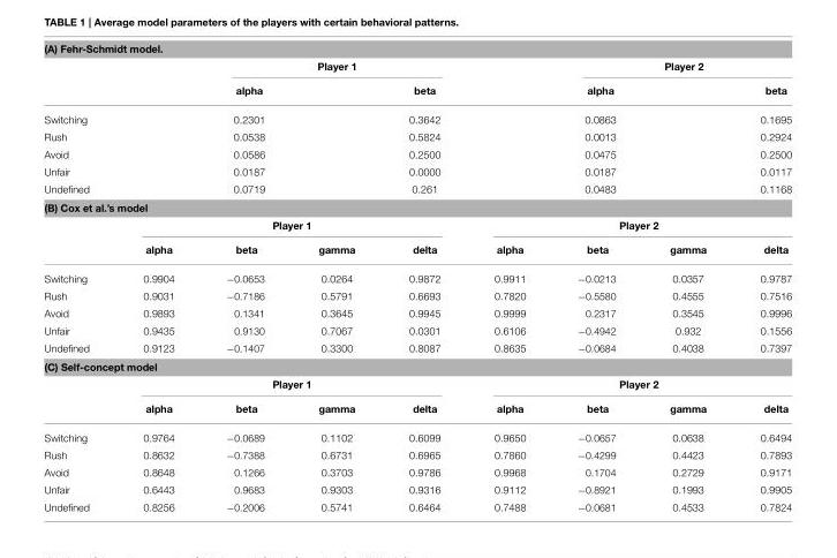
<table><thead><tr><td colspan="9">(A) Fehr-Schmidt model.</td></tr><tr><td rowspan="2"></td><td colspan="4">Player 1</td><td colspan="4">Player 2</td></tr><tr><td></td><td>alpha</td><td></td><td>beta</td><td></td><td>alpha</td><td></td><td>beta</td></tr></thead><tbody><tr><td>Switching</td><td></td><td>0.2301</td><td></td><td>0.3642</td><td></td><td>0.0863</td><td></td><td>0.1695</td></tr><tr><td>Rush</td><td></td><td>0.0538</td><td></td><td>0.5824</td><td></td><td>0.0013</td><td></td><td>0.2924</td></tr><tr><td>Avoid</td><td></td><td>0.0586</td><td></td><td>0.2500</td><td></td><td>0.0475</td><td></td><td>0.2500</td></tr><tr><td>Unfair</td><td></td><td>0.0187</td><td></td><td>0.0000</td><td></td><td>0.0187</td><td></td><td>0.0117</td></tr><tr><td>Undefined</td><td></td><td>0.0719</td><td></td><td>0.261</td><td></td><td>0.0483</td><td></td><td>0.1168</td></tr><tr><td colspan="9">(B) Cox et al.’s model</td></tr><tr><td></td><td colspan="4">Player 1</td><td colspan="4">Player 2</td></tr><tr><td></td><td>alpha</td><td>beta</td><td>gamma</td><td>delta</td><td>alpha</td><td>beta</td><td>gamma</td><td>delta</td></tr><tr><td>Switching</td><td>0.9904</td><td>−0.0653</td><td>0.0264</td><td>0.9872</td><td>0.9911</td><td>−0.0213</td><td>0.0357</td><td>0.9787</td></tr><tr><td>Rush</td><td>0.9031</td><td>−0.7186</td><td>0.5791</td><td>0.6693</td><td>0.7820</td><td>−0.5580</td><td>0.4555</td><td>0.7516</td></tr><tr><td>Avoid</td><td>0.9893</td><td>0.1341</td><td>0.3645</td><td>0.9945</td><td>0.9999</td><td>0.2317</td><td>0.3545</td><td>0.9996</td></tr><tr><td>Unfair</td><td>0.9435</td><td>0.9130</td><td>0.7067</td><td>0.0301</td><td>0.6106</td><td>−0.4942</td><td>0.932</td><td>0.1556</td></tr><tr><td>Undefined</td><td>0.9123</td><td>−0.1407</td><td>0.3300</td><td>0.8087</td><td>0.8635</td><td>−0.0684</td><td>0.4038</td><td>0.7397</td></tr><tr><td colspan="9">(C) Self-concept model</td></tr><tr><td></td><td colspan="4">Player 1</td><td colspan="4">Player 2</td></tr><tr><td></td><td>alpha</td><td>beta</td><td>gamma</td><td>delta</td><td>alpha</td><td>beta</td><td>gamma</td><td>delta</td></tr><tr><td>Switching</td><td>0.9764</td><td>−0.0689</td><td>0.1102</td><td>0.6099</td><td>0.9650</td><td>−0.0657</td><td>0.0638</td><td>0.6494</td></tr><tr><td>Rush</td><td>0.8632</td><td>−0.7388</td><td>0.6731</td><td>0.6965</td><td>0.7860</td><td>−0.4299</td><td>0.4423</td><td>0.7893</td></tr><tr><td>Avoid</td><td>0.8648</td><td>0.1266</td><td>0.3703</td><td>0.9786</td><td>0.9968</td><td>0.1704</td><td>0.2729</td><td>0.9171</td></tr><tr><td>Unfair</td><td>0.6443</td><td>0.9683</td><td>0.9303</td><td>0.9316</td><td>0.9112</td><td>−0.8921</td><td>0.1993</td><td>0.9905</td></tr><tr><td>Undefined</td><td>0.8256</td><td>−0.2006</td><td>0.5741</td><td>0.6464</td><td>0.7488</td><td>−0.0681</td><td>0.4533</td><td>0.7824</td></tr></tbody></table>